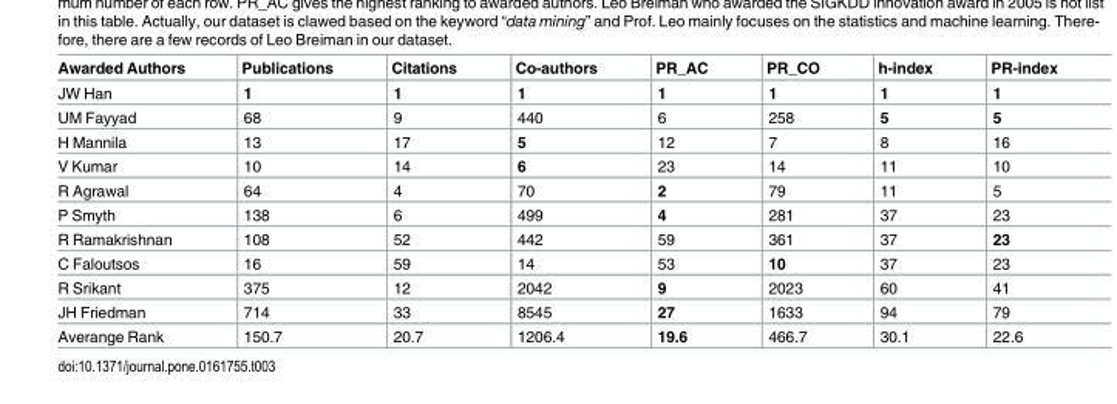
<table><thead><tr><td>Awarded Authors</td><td>Publications</td><td>Citations</td><td>Co-authors</td><td>PR_AC</td><td>PR_CO</td><td>h-index</td><td>PR-index</td></tr></thead><tbody><tr><td>JW Han</td><td>1</td><td>1</td><td>1</td><td>1</td><td>1</td><td>1</td><td>1</td></tr><tr><td>UM Fayyad</td><td>68</td><td>9</td><td>440</td><td>6</td><td>258</td><td>5</td><td>5</td></tr><tr><td>H Mannila</td><td>13</td><td>17</td><td>5</td><td>12</td><td>7</td><td>8</td><td>16</td></tr><tr><td>V Kumar</td><td>10</td><td>14</td><td>6</td><td>23</td><td>14</td><td>11</td><td>10</td></tr><tr><td>R Agrawal</td><td>64</td><td>4</td><td>70</td><td>2</td><td>79</td><td>11</td><td>5</td></tr><tr><td>P Smyth</td><td>138</td><td>6</td><td>499</td><td>4</td><td>281</td><td>37</td><td>23</td></tr><tr><td>R Ramakrishnan</td><td>108</td><td>52</td><td>442</td><td>59</td><td>361</td><td>37</td><td>23</td></tr><tr><td>C Faloutsos</td><td>16</td><td>59</td><td>14</td><td>53</td><td>10</td><td>37</td><td>23</td></tr><tr><td>R Srikant</td><td>375</td><td>12</td><td>2042</td><td>9</td><td>2023</td><td>60</td><td>41</td></tr><tr><td>JH Friedman</td><td>714</td><td>33</td><td>8545</td><td>27</td><td>1633</td><td>94</td><td>79</td></tr><tr><td>Averange Rank</td><td>150.7</td><td>20.7</td><td>1206.4</td><td>19.6</td><td>466.7</td><td>30.1</td><td>22.6</td></tr></tbody></table>